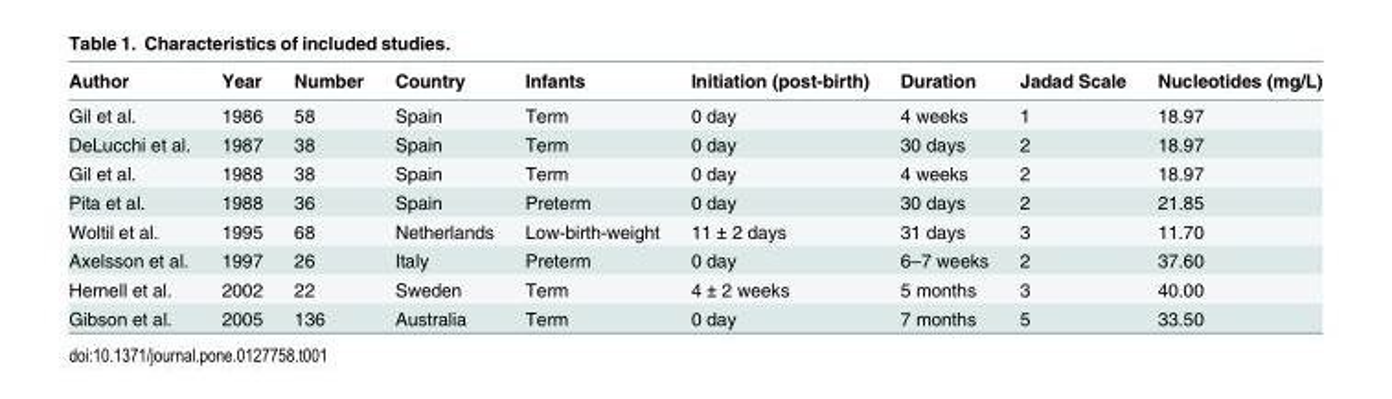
<table><thead><tr><td>Author</td><td>Year</td><td>Number</td><td>Country</td><td>Infants</td><td>Initiation (post-birth)</td><td>Duration</td><td>Jadad Scale</td><td>Nucleotides (mg/L)</td></tr></thead><tbody><tr><td>Gil et al.</td><td>1986</td><td>58</td><td>Spain</td><td>Term</td><td>0 day</td><td>4 weeks</td><td>1</td><td>18.97</td></tr><tr><td>DeLucchi et al.</td><td>1987</td><td>38</td><td>Spain</td><td>Term</td><td>0 day</td><td>30 days</td><td>2</td><td>18.97</td></tr><tr><td>Gil et al.</td><td>1988</td><td>38</td><td>Spain</td><td>Term</td><td>0 day</td><td>4 weeks</td><td>2</td><td>18.97</td></tr><tr><td>Pita et al.</td><td>1988</td><td>36</td><td>Spain</td><td>Preterm</td><td>0 day</td><td>30 days</td><td>2</td><td>21.85</td></tr><tr><td>Woltil et al.</td><td>1995</td><td>68</td><td>Netherlands</td><td>Low-birth-weight</td><td>11 ± 2 days</td><td>31 days</td><td>3</td><td>11.70</td></tr><tr><td>Axelsson et al.</td><td>1997</td><td>26</td><td>Italy</td><td>Preterm</td><td>0 day</td><td>6–7 weeks</td><td>2</td><td>37.60</td></tr><tr><td>Hernell et al.</td><td>2002</td><td>22</td><td>Sweden</td><td>Term</td><td>4 ± 2 weeks</td><td>5 months</td><td>3</td><td>40.00</td></tr><tr><td>Gibson et al.</td><td>2005</td><td>136</td><td>Australia</td><td>Term</td><td>0 day</td><td>7 months</td><td>5</td><td>33.50</td></tr></tbody></table>